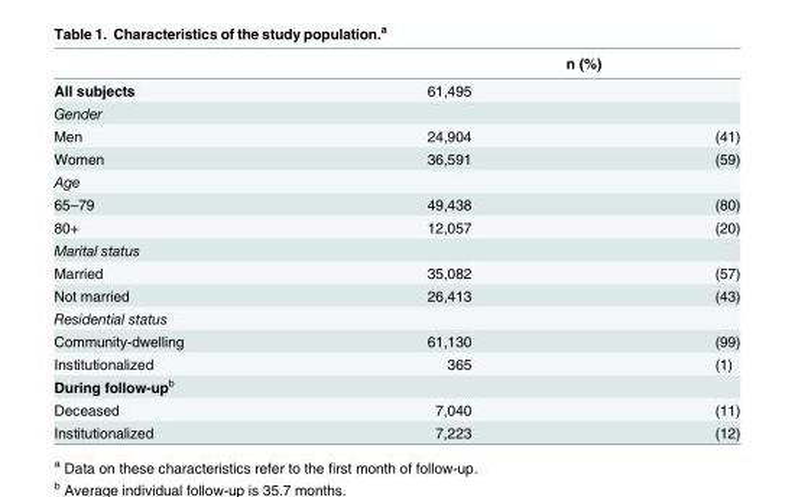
<table><thead><tr><td rowspan="2">All subjects</td><td colspan="2">n (%)</td></tr><tr><td>61,495</td><td></td></tr></thead><tbody><tr><td colspan="3">Gender</td></tr><tr><td>Men</td><td>24,904</td><td>(41)</td></tr><tr><td>Women</td><td>36,591</td><td>(59)</td></tr><tr><td colspan="3">Age</td></tr><tr><td>65–79</td><td>49,438</td><td>(80)</td></tr><tr><td>80+</td><td>12,057</td><td>(20)</td></tr><tr><td colspan="3">Marital status</td></tr><tr><td>Married</td><td>35,082</td><td>(57)</td></tr><tr><td>Not married</td><td>26,413</td><td>(43)</td></tr><tr><td colspan="3">Residential status</td></tr><tr><td>Community-dwelling</td><td>61,130</td><td>(99)</td></tr><tr><td>Institutionalized</td><td>365</td><td>(1)</td></tr><tr><td colspan="3">During follow-up<sup>b</sup></td></tr><tr><td>Deceased</td><td>7,040</td><td>(11)</td></tr><tr><td>Institutionalized</td><td>7,223</td><td>(12)</td></tr></tbody></table>